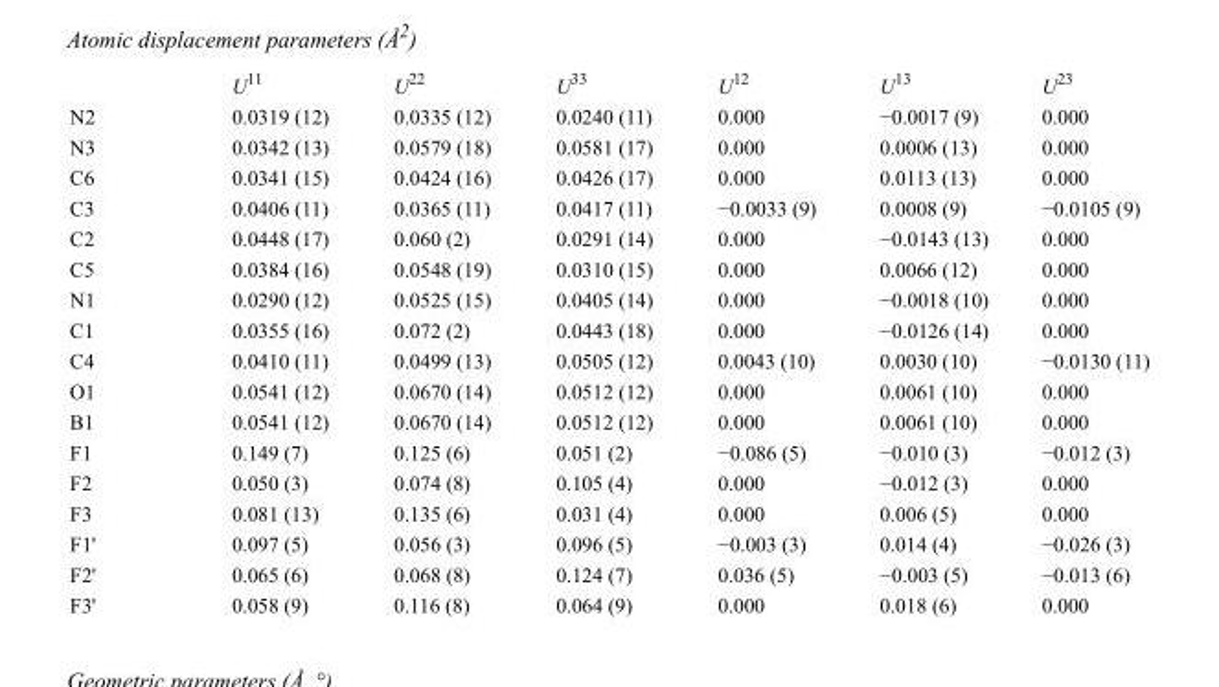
<table><thead><tr><td></td><td>U<sup>11</sup></td><td>U<sup>22</sup></td><td>U<sup>33</sup></td><td>U<sup>12</sup></td><td>U<sup>13</sup></td><td>U<sup>23</sup></td></tr></thead><tbody><tr><td>N2</td><td>0.0319 (12)</td><td>0.0335 (12)</td><td>0.0240 (11)</td><td>0.000</td><td>−0.0017 (9)</td><td>0.000</td></tr><tr><td>N3</td><td>0.0342 (13)</td><td>0.0579 (18)</td><td>0.0581 (17)</td><td>0.000</td><td>0.0006 (13)</td><td>0.000</td></tr><tr><td>C6</td><td>0.0341 (15)</td><td>0.0424 (16)</td><td>0.0426 (17)</td><td>0.000</td><td>0.0113 (13)</td><td>0.000</td></tr><tr><td>C3</td><td>0.0406 (11)</td><td>0.0365 (11)</td><td>0.0417 (11)</td><td>−0.0033 (9)</td><td>0.0008 (9)</td><td>−0.0105 (9)</td></tr><tr><td>C2</td><td>0.0448 (17)</td><td>0.060 (2)</td><td>0.0291 (14)</td><td>0.000</td><td>−0.0143 (13)</td><td>0.000</td></tr><tr><td>C5</td><td>0.0384 (16)</td><td>0.0548 (19)</td><td>0.0310 (15)</td><td>0.000</td><td>0.0066 (12)</td><td>0.000</td></tr><tr><td>N1</td><td>0.0290 (12)</td><td>0.0525 (15)</td><td>0.0405 (14)</td><td>0.000</td><td>−0.0018 (10)</td><td>0.000</td></tr><tr><td>C1</td><td>0.0355 (16)</td><td>0.072 (2)</td><td>0.0443 (18)</td><td>0.000</td><td>−0.0126 (14)</td><td>0.000</td></tr><tr><td>C4</td><td>0.0410 (11)</td><td>0.0499 (13)</td><td>0.0505 (12)</td><td>0.0043 (10)</td><td>0.0030 (10)</td><td>−0.0130 (11)</td></tr><tr><td>O1</td><td>0.0541 (12)</td><td>0.0670 (14)</td><td>0.0512 (12)</td><td>0.000</td><td>0.0061 (10)</td><td>0.000</td></tr><tr><td>B1</td><td>0.0541 (12)</td><td>0.0670 (14)</td><td>0.0512 (12)</td><td>0.000</td><td>0.0061 (10)</td><td>0.000</td></tr><tr><td>F1</td><td>0.149 (7)</td><td>0.125 (6)</td><td>0.051 (2)</td><td>−0.086 (5)</td><td>−0.010 (3)</td><td>−0.012 (3)</td></tr><tr><td>F2</td><td>0.050 (3)</td><td>0.074 (8)</td><td>0.105 (4)</td><td>0.000</td><td>−0.012 (3)</td><td>0.000</td></tr><tr><td>F3</td><td>0.081 (13)</td><td>0.135 (6)</td><td>0.031 (4)</td><td>0.000</td><td>0.006 (5)</td><td>0.000</td></tr><tr><td>F1&#x27;</td><td>0.097 (5)</td><td>0.056 (3)</td><td>0.096 (5)</td><td>−0.003 (3)</td><td>0.014 (4)</td><td>−0.026 (3)</td></tr><tr><td>F2&#x27;</td><td>0.065 (6)</td><td>0.068 (8)</td><td>0.124 (7)</td><td>0.036 (5)</td><td>−0.003 (5)</td><td>−0.013 (6)</td></tr><tr><td>F3&#x27;</td><td>0.058 (9)</td><td>0.116 (8)</td><td>0.064 (9)</td><td>0.000</td><td>0.018 (6)</td><td>0.000</td></tr></tbody></table>